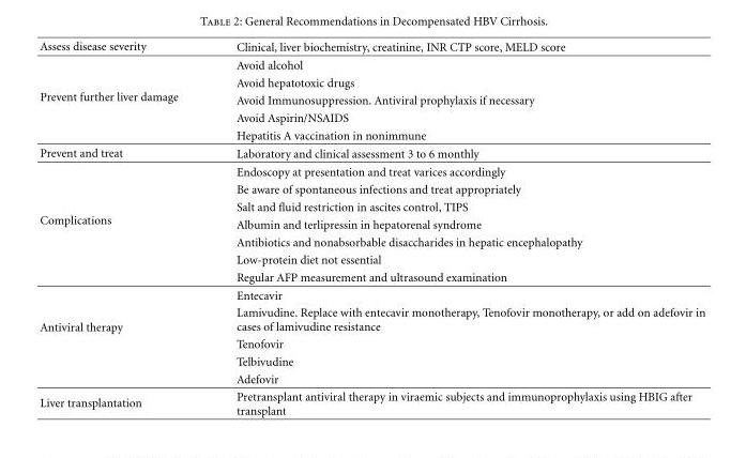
<table><thead><tr><td>Assess disease severity</td><td>Clinical, liver biochemistry, creatinine, INR CTP score, MELD score</td></tr></thead><tbody><tr><td rowspan="5">Prevent further liver damage</td><td>Avoid alcohol</td></tr><tr><td>Avoid hepatotoxic drugs</td></tr><tr><td>Avoid Immunosuppression. Antiviral prophylaxis if necessary</td></tr><tr><td>Avoid Aspirin/NSAIDS</td></tr><tr><td>Hepatitis A vaccination in nonimmune</td></tr><tr><td>Prevent and treat</td><td>Laboratory and clinical assessment 3 to 6 monthly</td></tr><tr><td rowspan="7">Complications</td><td>Endoscopy at presentation and treat varices accordingly</td></tr><tr><td>Be aware of spontaneous infections and treat appropriately</td></tr><tr><td>Salt and fluid restriction in ascites control, TIPS</td></tr><tr><td>Albumin and terlipressin in hepatorenal syndrome</td></tr><tr><td>Antibiotics and nonabsorbable disaccharides in hepatic encephalopathy</td></tr><tr><td>Low-protein diet not essential</td></tr><tr><td>Regular AFP measurement and ultrasound examination</td></tr><tr><td rowspan="5">Antiviral therapy</td><td>Entecavir</td></tr><tr><td>Lamivudine. Replace with entecavir monotherapy, Tenofovir monotherapy, or add on adefovir in cases of lamivudine resistance</td></tr><tr><td>Tenofovir</td></tr><tr><td>Telbivudine</td></tr><tr><td>Adefovir</td></tr><tr><td>Liver transplantation</td><td>Pretransplant antiviral therapy in viraemic subjects and immunoprophylaxis using HBIG after transplant</td></tr></tbody></table>